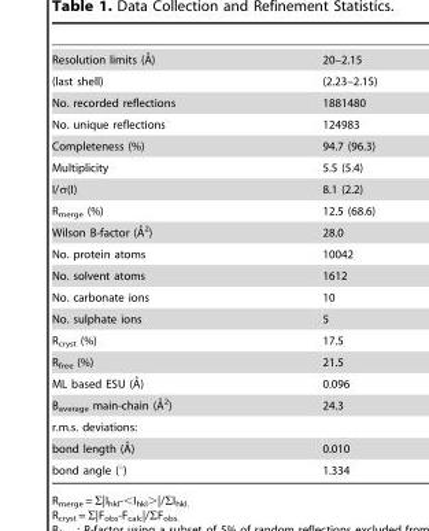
<table><tbody><tr><td>Resolution limits (A˚)</td><td>20–2.15</td></tr><tr><td>(last shell)</td><td>(2.23–2.15)</td></tr><tr><td>No. recorded reflections</td><td>1881480</td></tr><tr><td>No. unique reflections</td><td>124983</td></tr><tr><td>Completeness (%)</td><td>94.7 (96.3)</td></tr><tr><td>Multiplicity</td><td>5.5 (5.4)</td></tr><tr><td>I/σ(I)</td><td>8.1 (2.2)</td></tr><tr><td>R<sub>merge</sub> (%)</td><td>12.5 (68.6)</td></tr><tr><td>Wilson B-factor (A˚2)</td><td>28.0</td></tr><tr><td>No. protein atoms</td><td>10042</td></tr><tr><td>No. solvent atoms</td><td>1612</td></tr><tr><td>No. carbonate ions</td><td>10</td></tr><tr><td>No. sulphate ions</td><td>5</td></tr><tr><td>R<sub>cryst</sub> (%)</td><td>17.5</td></tr><tr><td>R<sub>free</sub> (%)</td><td>21.5</td></tr><tr><td>ML based ESU (A˚)</td><td>0.096</td></tr><tr><td>Baverage main-chain (A˚ 2)</td><td>24.3</td></tr><tr><td colspan="2">r.m.s. deviations:</td></tr><tr><td>bond length (A˚)</td><td>0.010</td></tr><tr><td>bond angle (°)</td><td>1.334</td></tr></tbody></table>